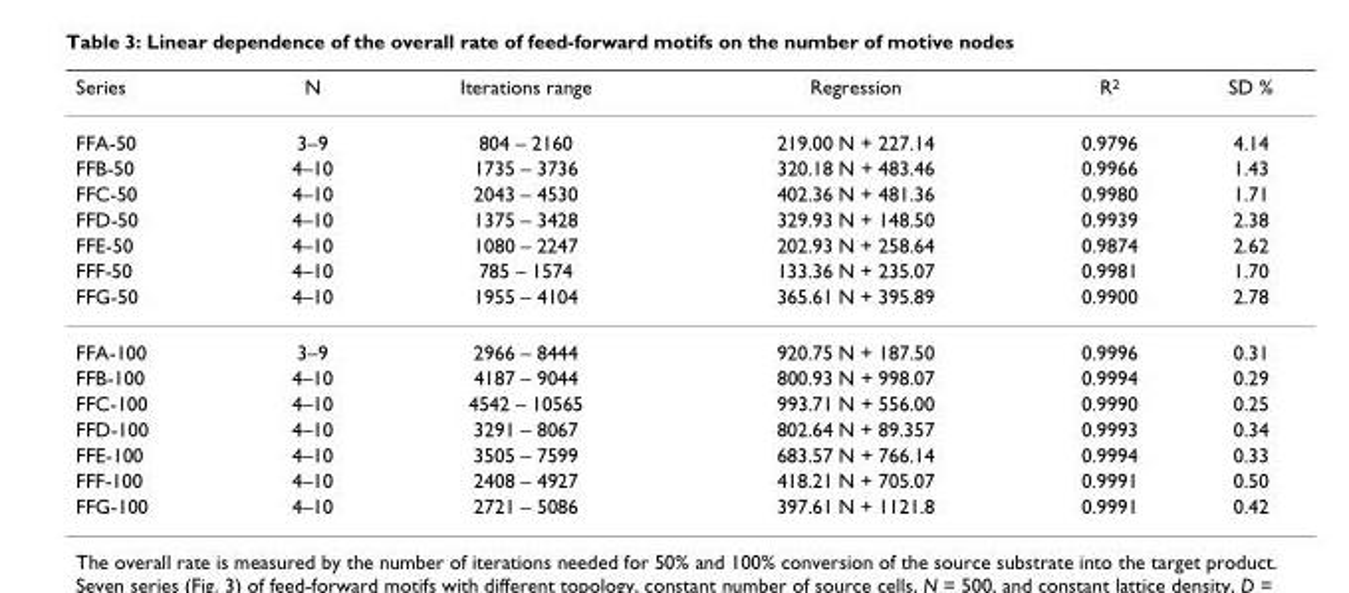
<table><thead><tr><td>Series</td><td>N</td><td>Iterations range</td><td>Regression</td><td>R<sup>2</sup></td><td>SD %</td></tr></thead><tbody><tr><td>FFA-50</td><td>3–9</td><td>804 – 2160</td><td>219.00 N + 227.14</td><td>0.9796</td><td>4.14</td></tr><tr><td>FFB-50</td><td>4–10</td><td>1735 – 3736</td><td>320.18 N + 483.46</td><td>0.9966</td><td>1.43</td></tr><tr><td>FFC-50</td><td>4–10</td><td>2043 – 4530</td><td>402.36 N + 481.36</td><td>0.9980</td><td>1.71</td></tr><tr><td>FFD-50</td><td>4–10</td><td>1375 – 3428</td><td>329.93 N + 148.50</td><td>0.9939</td><td>2.38</td></tr><tr><td>FFE-50</td><td>4–10</td><td>1080 – 2247</td><td>202.93 N + 258.64</td><td>0.9874</td><td>2.62</td></tr><tr><td>FFF-50</td><td>4–10</td><td>785 – 1574</td><td>133.36 N + 235.07</td><td>0.9981</td><td>1.70</td></tr><tr><td>FFG-50</td><td>4–10</td><td>1955 – 4104</td><td>365.61 N + 395.89</td><td>0.9900</td><td>2.78</td></tr><tr><td>FFA-100</td><td>3–9</td><td>2966 – 8444</td><td>920.75 N + 187.50</td><td>0.9996</td><td>0.31</td></tr><tr><td>FFB-100</td><td>4–10</td><td>4187 – 9044</td><td>800.93 N + 998.07</td><td>0.9994</td><td>0.29</td></tr><tr><td>FFC-100</td><td>4–10</td><td>4542 – 10565</td><td>993.71 N + 556.00</td><td>0.9990</td><td>0.25</td></tr><tr><td>FFD-100</td><td>4–10</td><td>3291 – 8067</td><td>802.64 N + 89.357</td><td>0.9993</td><td>0.34</td></tr><tr><td>FFE-100</td><td>4–10</td><td>3505 – 7599</td><td>683.57 N + 766.14</td><td>0.9994</td><td>0.33</td></tr><tr><td>FFF-100</td><td>4–10</td><td>2408 – 4927</td><td>418.21 N + 705.07</td><td>0.9991</td><td>0.50</td></tr><tr><td>FFG-100</td><td>4–10</td><td>2721 – 5086</td><td>397.61 N + 1121.8</td><td>0.9991</td><td>0.42</td></tr></tbody></table>